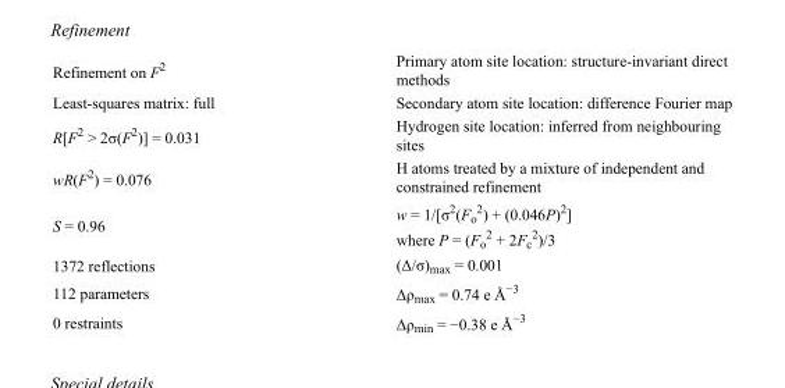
<table><tbody><tr><td>Refinement on F<sup>2</sup></td><td>Primary atom site location: structure-invariant direct methods</td></tr><tr><td>Least-squares matrix: full</td><td>Secondary atom site location: difference Fourier map</td></tr><tr><td>R[F<sup>2</sup> &gt; 2σ(F<sup>2</sup>)] = 0.031</td><td>Hydrogen site location: inferred from neighbouring sites</td></tr><tr><td>wR(F<sup>2</sup>) = 0.076</td><td>H atoms treated by a mixture of independent and constrained refinement</td></tr><tr><td>S = 0.96</td><td>w = 1/[σ<sup>2</sup>(F<sub>o</sub> <sup>2</sup>) + (0.046P)<sup>2</sup>] where P = (F<sub>o</sub> <sup>2</sup> + 2F<sub>c</sub> <sup>2</sup>)/3</td></tr><tr><td>1372 reflections</td><td>(Δ/σ)<sub>max</sub> = 0.001</td></tr><tr><td>112 parameters</td><td>Δρ<sub>max</sub> = 0.74 e Å<sup>−3</sup></td></tr><tr><td>0 restraints</td><td>Δρ<sub>min</sub> = −0.38 e Å<sup>−3</sup></td></tr></tbody></table>